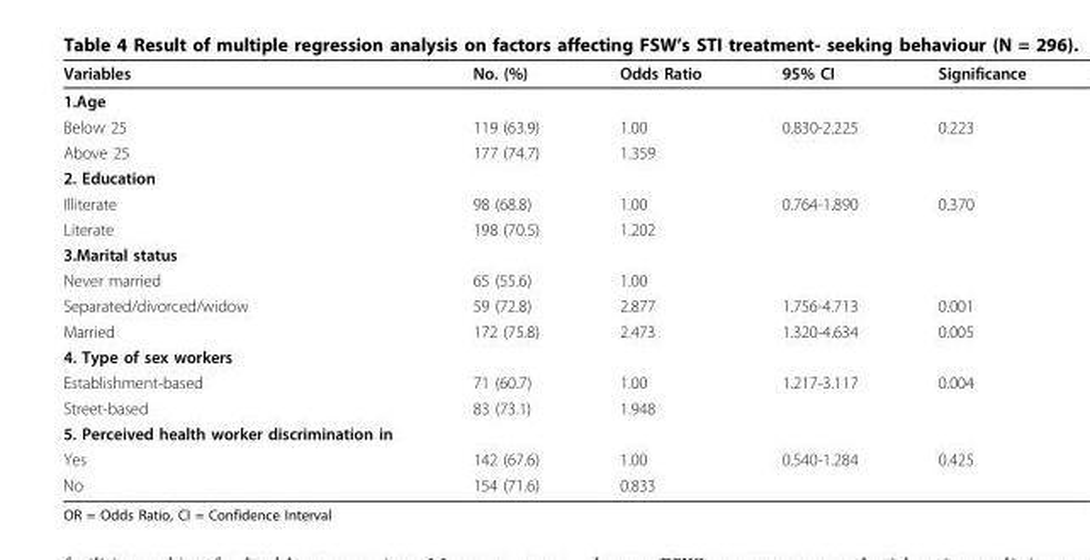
<table><thead><tr><td>Variables</td><td>No. (%)</td><td>Odds Ratio</td><td>95% CI</td><td>Significance</td></tr></thead><tbody><tr><td colspan="5">1.Age</td></tr><tr><td>Below 25</td><td>119 (63.9)</td><td>1.00</td><td>0.830-2.225</td><td>0.223</td></tr><tr><td>Above 25</td><td>177 (74.7)</td><td>1.359</td><td></td><td></td></tr><tr><td colspan="5">2. Education</td></tr><tr><td>Illiterate</td><td>98 (68.8)</td><td>1.00</td><td>0.764-1.890</td><td>0.370</td></tr><tr><td>Literate</td><td>198 (70.5)</td><td>1.202</td><td></td><td></td></tr><tr><td colspan="5">3.Marital status</td></tr><tr><td>Never married</td><td>65 (55.6)</td><td>1.00</td><td></td><td></td></tr><tr><td>Separated/divorced/widow</td><td>59 (72.8)</td><td>2.877</td><td>1.756-4.713</td><td>0.001</td></tr><tr><td>Married</td><td>172 (75.8)</td><td>2.473</td><td>1.320-4.634</td><td>0.005</td></tr><tr><td colspan="5">4. Type of sex workers</td></tr><tr><td>Establishment-based</td><td>71 (60.7)</td><td>1.00</td><td>1.217-3.117</td><td>0.004</td></tr><tr><td>Street-based</td><td>83 (73.1)</td><td>1.948</td><td></td><td></td></tr><tr><td colspan="5">5. Perceived health worker discrimination in</td></tr><tr><td>Yes</td><td>142 (67.6)</td><td>1.00</td><td>0.540-1.284</td><td>0.425</td></tr><tr><td>No</td><td>154 (71.6)</td><td>0.833</td><td></td><td></td></tr></tbody></table>